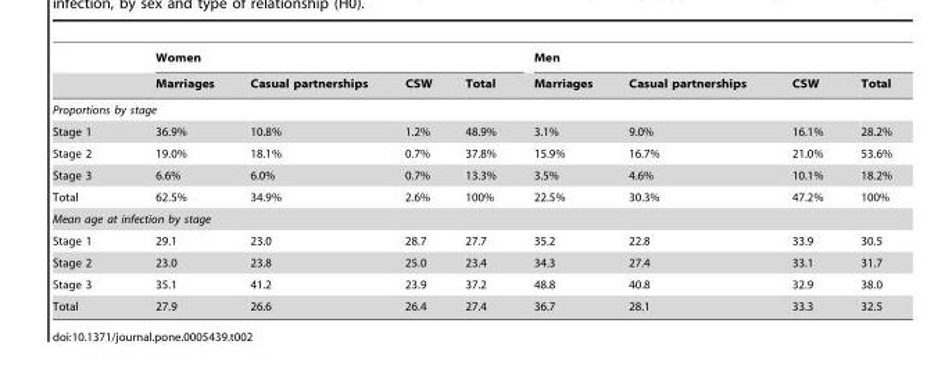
<table><thead><tr><td rowspan="2"></td><td colspan="4">Women</td><td colspan="4">Men</td></tr><tr><td>Marriages</td><td>Casual partnerships</td><td>CSW</td><td>Total</td><td>Marriages</td><td>Casual partnerships</td><td>CSW</td><td>Total</td></tr></thead><tbody><tr><td colspan="9">Proportions by stage</td></tr><tr><td>Stage 1</td><td>36.9%</td><td>10.8%</td><td>1.2%</td><td>48.9%</td><td>3.1%</td><td>9.0%</td><td>16.1%</td><td>28.2%</td></tr><tr><td>Stage 2</td><td>19.0%</td><td>18.1%</td><td>0.7%</td><td>37.8%</td><td>15.9%</td><td>16.7%</td><td>21.0%</td><td>53.6%</td></tr><tr><td>Stage 3</td><td>6.6%</td><td>6.0%</td><td>0.7%</td><td>13.3%</td><td>3.5%</td><td>4.6%</td><td>10.1%</td><td>18.2%</td></tr><tr><td>Total</td><td>62.5%</td><td>34.9%</td><td>2.6%</td><td>100%</td><td>22.5%</td><td>30.3%</td><td>47.2%</td><td>100%</td></tr><tr><td colspan="9">Mean age at infection by stage</td></tr><tr><td>Stage 1</td><td>29.1</td><td>23.0</td><td>28.7</td><td>27.7</td><td>35.2</td><td>22.8</td><td>33.9</td><td>30.5</td></tr><tr><td>Stage 2</td><td>23.0</td><td>23.8</td><td>25.0</td><td>23.4</td><td>34.3</td><td>27.4</td><td>33.1</td><td>31.7</td></tr><tr><td>Stage 3</td><td>35.1</td><td>41.2</td><td>23.9</td><td>37.2</td><td>48.8</td><td>40.8</td><td>32.9</td><td>38.0</td></tr><tr><td>Total</td><td>27.9</td><td>26.6</td><td>26.4</td><td>27.4</td><td>36.7</td><td>28.1</td><td>33.3</td><td>32.5</td></tr></tbody></table>